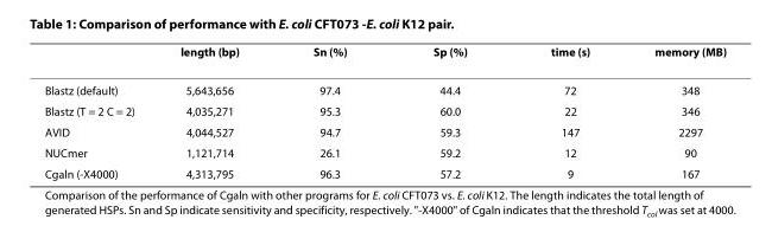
<table><thead><tr><td></td><td>length (bp)</td><td>Sn (%)</td><td>Sp (%)</td><td>time (s)</td><td>memory (MB)</td></tr></thead><tbody><tr><td>Blastz (default)</td><td>5,643,656</td><td>97.4</td><td>44.4</td><td>72</td><td>348</td></tr><tr><td>Blastz (T = 2 C = 2)</td><td>4,035,271</td><td>95.3</td><td>60.0</td><td>22</td><td>346</td></tr><tr><td>AVID</td><td>4,044,527</td><td>94.7</td><td>59.3</td><td>147</td><td>2297</td></tr><tr><td>NUCmer</td><td>1,121,714</td><td>26.1</td><td>59.2</td><td>12</td><td>90</td></tr><tr><td>Cgaln (-X4000)</td><td>4,313,795</td><td>96.3</td><td>57.2</td><td>9</td><td>167</td></tr></tbody></table>